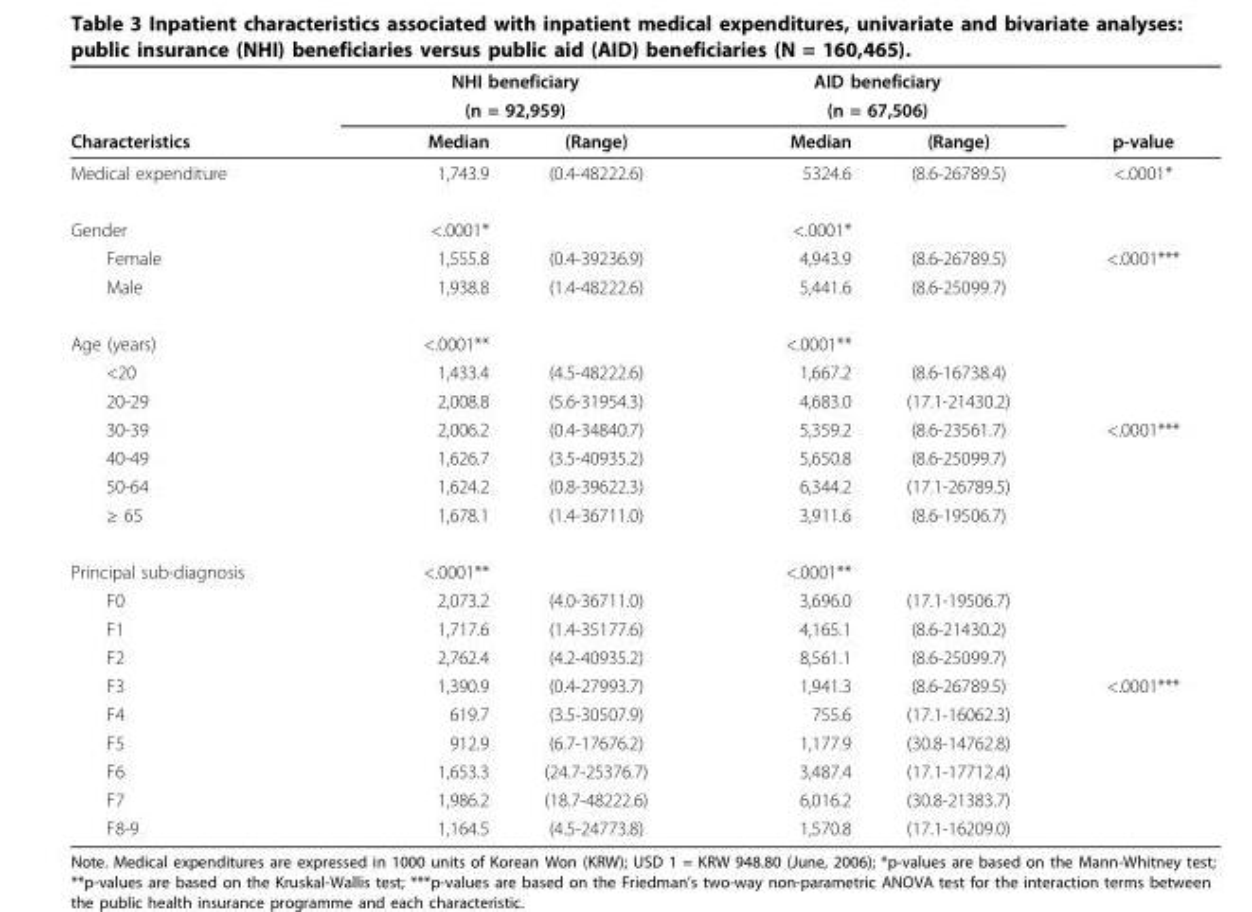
<table><thead><tr><td rowspan="3">Characteristics</td><td rowspan="2" colspan="2">NHI beneficiary (n = 92,959)</td><td rowspan="2" colspan="2">AID beneficiary (n = 67,506)</td><td rowspan="3">p-value</td></tr><tr></tr><tr><td>Median</td><td>(Range)</td><td>Median</td><td>(Range)</td></tr></thead><tbody><tr><td>Medical expenditure</td><td>1,743.9</td><td>(0.4-48222.6)</td><td>5324.6</td><td>(8.6-26789.5)</td><td>&lt;.0001*</td></tr><tr><td>Gender</td><td>&lt;.0001*</td><td></td><td>&lt;.0001*</td><td></td><td></td></tr><tr><td>Female</td><td>1,555.8</td><td>(0.4-39236.9)</td><td>4,943.9</td><td>(8.6-26789.5)</td><td>&lt;.0001***</td></tr><tr><td>Male</td><td>1,938.8</td><td>(1.4-48222.6)</td><td>5,441.6</td><td>(8.6-25099.7)</td><td></td></tr><tr><td>Age (years)</td><td>&lt;.0001**</td><td></td><td>&lt;.0001**</td><td></td><td></td></tr><tr><td>&lt;20</td><td>1,433.4</td><td>(4.5-48222.6)</td><td>1,667.2</td><td>(8.6-16738.4)</td><td></td></tr><tr><td>20-29</td><td>2,008.8</td><td>(5.6-31954.3)</td><td>4,683.0</td><td>(17.1-21430.2)</td><td></td></tr><tr><td>30-39</td><td>2,006.2</td><td>(0.4-34840.7)</td><td>5,359.2</td><td>(8.6-23561.7)</td><td>&lt;.0001***</td></tr><tr><td>40-49</td><td>1,626.7</td><td>(3.5-40935.2)</td><td>5,650.8</td><td>(8.6-25099.7)</td><td></td></tr><tr><td>50-64</td><td>1,624.2</td><td>(0.8-39622.3)</td><td>6,344.2</td><td>(17.1-26789.5)</td><td></td></tr><tr><td>≥ 65</td><td>1,678.1</td><td>(1.4-36711.0)</td><td>3,911.6</td><td>(8.6-19506.7)</td><td></td></tr><tr><td>Principal sub-diagnosis</td><td>&lt;.0001**</td><td></td><td>&lt;.0001**</td><td></td><td></td></tr><tr><td>F0</td><td>2,073.2</td><td>(4.0-36711.0)</td><td>3,696.0</td><td>(17.1-19506.7)</td><td></td></tr><tr><td>F1</td><td>1,717.6</td><td>(1.4-35177.6)</td><td>4,165.1</td><td>(8.6-21430.2)</td><td></td></tr><tr><td>F2</td><td>2,762.4</td><td>(4.2-40935.2)</td><td>8,561.1</td><td>(8.6-25099.7)</td><td></td></tr><tr><td>F3</td><td>1,390.9</td><td>(0.4-27993.7)</td><td>1,941.3</td><td>(8.6-26789.5)</td><td>&lt;.0001***</td></tr><tr><td>F4</td><td>619.7</td><td>(3.5-30507.9)</td><td>755.6</td><td>(17.1-16062.3)</td><td></td></tr><tr><td>F5</td><td>912.9</td><td>(6.7-17676.2)</td><td>1,177.9</td><td>(30.8-14762.8)</td><td></td></tr><tr><td>F6</td><td>1,653.3</td><td>(24.7-25376.7)</td><td>3,487.4</td><td>(17.1-17712.4)</td><td></td></tr><tr><td>F7</td><td>1,986.2</td><td>(18.7-48222.6)</td><td>6,016.2</td><td>(30.8-21383.7)</td><td></td></tr><tr><td>F8-9</td><td>1,164.5</td><td>(4.5-24773.8)</td><td>1,570.8</td><td>(17.1-16209.0)</td><td></td></tr></tbody></table>